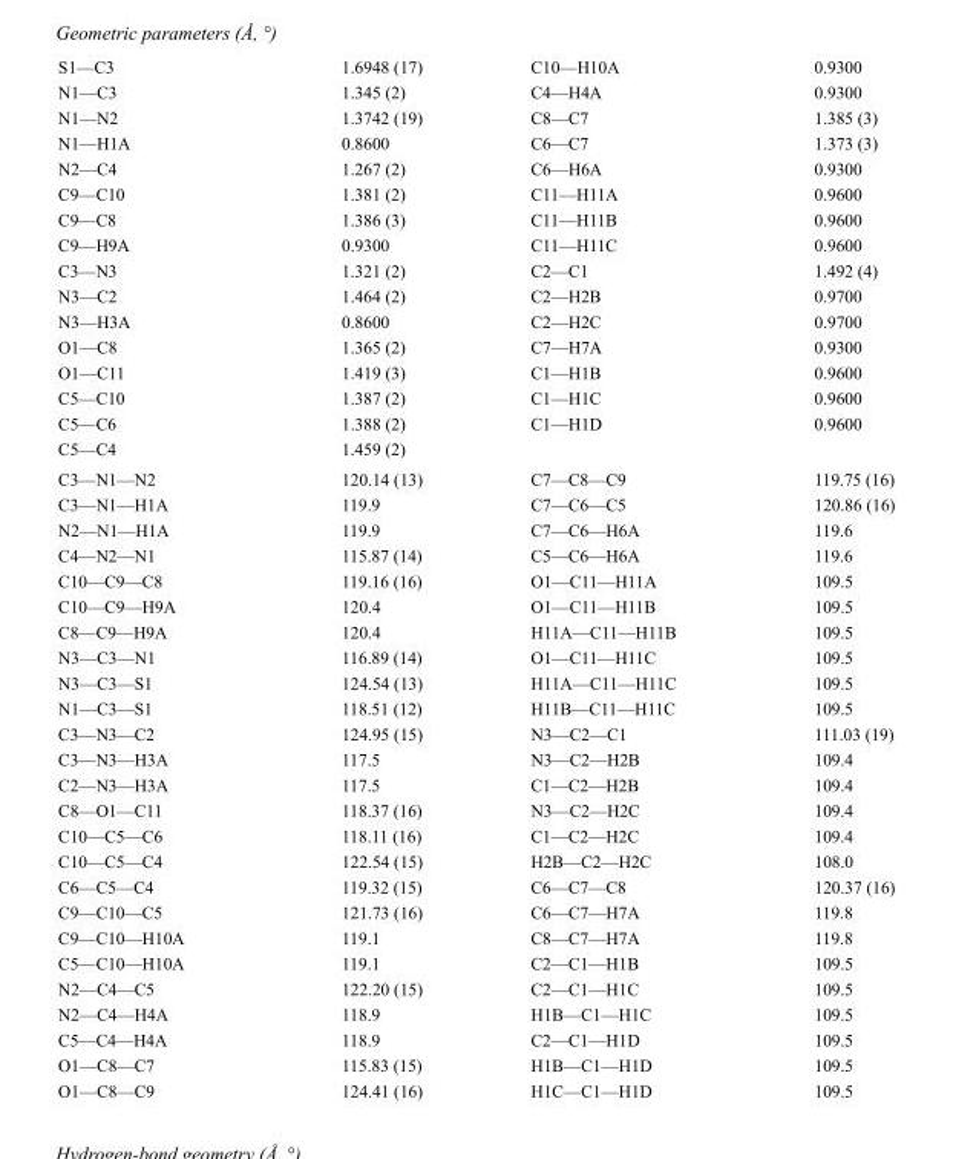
<table><tbody><tr><td>S1—C3</td><td>1.6948 (17)</td><td>C10—H10A</td><td>0.9300</td></tr><tr><td>N1—C3</td><td>1.345 (2)</td><td>C4—H4A</td><td>0.9300</td></tr><tr><td>N1—N2</td><td>1.3742 (19)</td><td>C8—C7</td><td>1.385 (3)</td></tr><tr><td>N1—H1A</td><td>0.8600</td><td>C6—C7</td><td>1.373 (3)</td></tr><tr><td>N2—C4</td><td>1.267 (2)</td><td>C6—H6A</td><td>0.9300</td></tr><tr><td>C9—C10</td><td>1.381 (2)</td><td>C11—H11A</td><td>0.9600</td></tr><tr><td>C9—C8</td><td>1.386 (3)</td><td>C11—H11B</td><td>0.9600</td></tr><tr><td>C9—H9A</td><td>0.9300</td><td>C11—H11C</td><td>0.9600</td></tr><tr><td>C3—N3</td><td>1.321 (2)</td><td>C2—C1</td><td>1.492 (4)</td></tr><tr><td>N3—C2</td><td>1.464 (2)</td><td>C2—H2B</td><td>0.9700</td></tr><tr><td>N3—H3A</td><td>0.8600</td><td>C2—H2C</td><td>0.9700</td></tr><tr><td>O1—C8</td><td>1.365 (2)</td><td>C7—H7A</td><td>0.9300</td></tr><tr><td>O1—C11</td><td>1.419 (3)</td><td>C1—H1B</td><td>0.9600</td></tr><tr><td>C5—C10</td><td>1.387 (2)</td><td>C1—H1C</td><td>0.9600</td></tr><tr><td>C5—C6</td><td>1.388 (2)</td><td>C1—H1D</td><td>0.9600</td></tr><tr><td>C5—C4</td><td>1.459 (2)</td><td></td><td></td></tr><tr><td>C3—N1—N2</td><td>120.14 (13)</td><td>C7—C8—C9</td><td>119.75 (16)</td></tr><tr><td>C3—N1—H1A</td><td>119.9</td><td>C7—C6—C5</td><td>120.86 (16)</td></tr><tr><td>N2—N1—H1A</td><td>119.9</td><td>C7—C6—H6A</td><td>119.6</td></tr><tr><td>C4—N2—N1</td><td>115.87 (14)</td><td>C5—C6—H6A</td><td>119.6</td></tr><tr><td>C10—C9—C8</td><td>119.16 (16)</td><td>O1—C11—H11A</td><td>109.5</td></tr><tr><td>C10—C9—H9A</td><td>120.4</td><td>O1—C11—H11B</td><td>109.5</td></tr><tr><td>C8—C9—H9A</td><td>120.4</td><td>H11A—C11—H11B</td><td>109.5</td></tr><tr><td>N3—C3—N1</td><td>116.89 (14)</td><td>O1—C11—H11C</td><td>109.5</td></tr><tr><td>N3—C3—S1</td><td>124.54 (13)</td><td>H11A—C11—H11C</td><td>109.5</td></tr><tr><td>N1—C3—S1</td><td>118.51 (12)</td><td>H11B—C11—H11C</td><td>109.5</td></tr><tr><td>C3—N3—C2</td><td>124.95 (15)</td><td>N3—C2—C1</td><td>111.03 (19)</td></tr><tr><td>C3—N3—H3A</td><td>117.5</td><td>N3—C2—H2B</td><td>109.4</td></tr><tr><td>C2—N3—H3A</td><td>117.5</td><td>C1—C2—H2B</td><td>109.4</td></tr><tr><td>C8—O1—C11</td><td>118.37 (16)</td><td>N3—C2—H2C</td><td>109.4</td></tr><tr><td>C10—C5—C6</td><td>118.11 (16)</td><td>C1—C2—H2C</td><td>109.4</td></tr><tr><td>C10—C5—C4</td><td>122.54 (15)</td><td>H2B—C2—H2C</td><td>108.0</td></tr><tr><td>C6—C5—C4</td><td>119.32 (15)</td><td>C6—C7—C8</td><td>120.37 (16)</td></tr><tr><td>C9—C10—C5</td><td>121.73 (16)</td><td>C6—C7—H7A</td><td>119.8</td></tr><tr><td>C9—C10—H10A</td><td>119.1</td><td>C8—C7—H7A</td><td>119.8</td></tr><tr><td>C5—C10—H10A</td><td>119.1</td><td>C2—C1—H1B</td><td>109.5</td></tr><tr><td>N2—C4—C5</td><td>122.20 (15)</td><td>C2—C1—H1C</td><td>109.5</td></tr><tr><td>N2—C4—H4A</td><td>118.9</td><td>H1B—C1—H1C</td><td>109.5</td></tr><tr><td>C5—C4—H4A</td><td>118.9</td><td>C2—C1—H1D</td><td>109.5</td></tr><tr><td>O1—C8—C7</td><td>115.83 (15)</td><td>H1B—C1—H1D</td><td>109.5</td></tr><tr><td>O1—C8—C9</td><td>124.41 (16)</td><td>H1C—C1—H1D</td><td>109.5</td></tr></tbody></table>